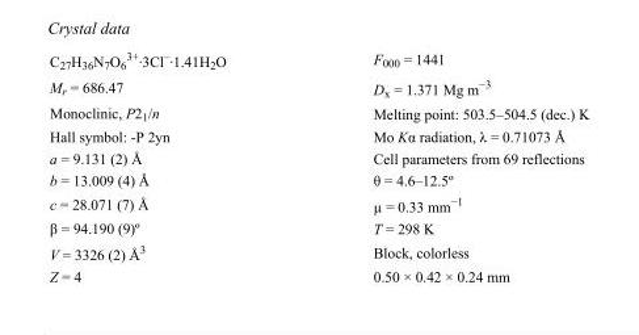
<table><tbody><tr><td>C<sub>27</sub>H<sub>36</sub>N<sub>7</sub>O<sub>6</sub> <sup>3+</sup>·3Cl<sup>–</sup>·1.41H<sub>2</sub>O</td><td>F000 = 1441</td></tr><tr><td>M<sub>r</sub> = 686.47</td><td>D<sub>x</sub> = 1.371 Mg m<sup>−3</sup></td></tr><tr><td>Monoclinic, P2<sub>1</sub>/n</td><td>Melting point: 503.5–504.5 (dec.) K</td></tr><tr><td>Hall symbol: -P 2yn</td><td>Mo Kα radiation, λ = 0.71073 Å</td></tr><tr><td>a = 9.131 (2) Å</td><td>Cell parameters from 69 reflections</td></tr><tr><td>b = 13.009 (4) Å</td><td>θ = 4.6–12.5º</td></tr><tr><td>c = 28.071 (7) Å</td><td>µ = 0.33 mm<sup>−1</sup></td></tr><tr><td>β = 94.190 (9)º</td><td>T = 298 K</td></tr><tr><td>V = 3326 (2) Å<sup>3</sup></td><td>Block, colorless</td></tr><tr><td>Z = 4</td><td>0.50 × 0.42 × 0.24 mm</td></tr></tbody></table>